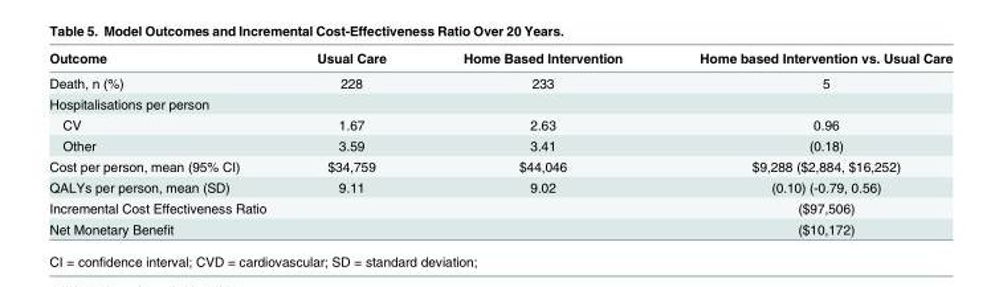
<table><thead><tr><td>Outcome</td><td>Usual Care</td><td>Home Based Intervention</td><td>Home based Intervention vs. Usual Care</td></tr></thead><tbody><tr><td>Death, n (%)</td><td>228</td><td>233</td><td>5</td></tr><tr><td colspan="4">Hospitalisations per person</td></tr><tr><td>CV</td><td>1.67</td><td>2.63</td><td>0.96</td></tr><tr><td>Other</td><td>3.59</td><td>3.41</td><td>(0.18)</td></tr><tr><td>Cost per person, mean (95% CI)</td><td>$34,759</td><td>$44,046</td><td>$9,288 ($2,884, $16,252)</td></tr><tr><td>QALYs per person, mean (SD)</td><td>9.11</td><td>9.02</td><td>(0.10) (-0.79, 0.56)</td></tr><tr><td colspan="3">Incremental Cost Effectiveness Ratio</td><td>($97,506)</td></tr><tr><td colspan="3">Net Monetary Benefit</td><td>($10,172)</td></tr></tbody></table>